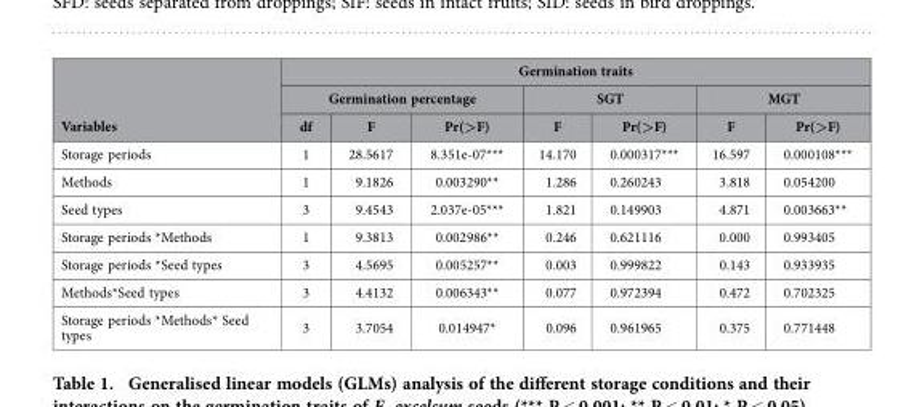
<table><thead><tr><td rowspan="3">Variables</td><td colspan="7">Germination traits</td></tr><tr><td colspan="3">Germination percentage</td><td colspan="2">SGT</td><td colspan="2">MGT</td></tr><tr><td>df</td><td>F</td><td>Pr(&gt;F)</td><td>F</td><td>Pr(&gt;F)</td><td>F</td><td>Pr(&gt;F)</td></tr></thead><tbody><tr><td>Storage periods</td><td>1</td><td>28.5617</td><td>8.351e-07***</td><td>14.170</td><td>0.000317***</td><td>16.597</td><td>0.000108***</td></tr><tr><td>Methods</td><td>1</td><td>9.1826</td><td>0.003290**</td><td>1.286</td><td>0.260243</td><td>3.818</td><td>0.054200</td></tr><tr><td>Seed types</td><td>3</td><td>9.4543</td><td>2.037e-05***</td><td>1.821</td><td>0.149903</td><td>4.871</td><td>0.003663**</td></tr><tr><td>Storage periods *Methods</td><td>1</td><td>9.3813</td><td>0.002986**</td><td>0.246</td><td>0.621116</td><td>0.000</td><td>0.993405</td></tr><tr><td>Storage periods *Seed types</td><td>3</td><td>4.5695</td><td>0.005257**</td><td>0.003</td><td>0.999822</td><td>0.143</td><td>0.933935</td></tr><tr><td>Methods*Seed types</td><td>3</td><td>4.4132</td><td>0.006343**</td><td>0.077</td><td>0.972394</td><td>0.472</td><td>0.702325</td></tr><tr><td>Storage periods *Methods* Seed types</td><td>3</td><td>3.7054</td><td>0.014947*</td><td>0.096</td><td>0.961965</td><td>0.375</td><td>0.771448</td></tr></tbody></table>